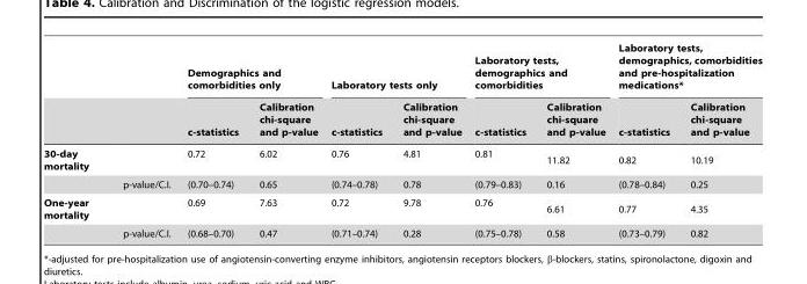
<table><thead><tr><td rowspan="2"></td><td rowspan="2"></td><td colspan="2">Demographics and comorbidities only</td><td colspan="2">Laboratory tests only</td><td colspan="2">Laboratory tests, demographics and comorbidities</td><td colspan="2">Laboratory tests, demographics, comorbidities and pre-hospitalization medications*</td></tr><tr><td>c-statistics</td><td>Calibration chi-square and p-value</td><td>c-statistics</td><td>Calibration chi-square and p-value</td><td>c-statistics</td><td>Calibration chi-square and p-value</td><td>c-statistics</td><td>Calibration chi-square and p-value</td></tr></thead><tbody><tr><td rowspan="2">30-day mortality</td><td></td><td>0.72</td><td>6.02</td><td>0.76</td><td>4.81</td><td>0.81</td><td>11.82</td><td>0.82</td><td>10.19</td></tr><tr><td>p-value/C.I.</td><td>(0.70–0.74)</td><td>0.65</td><td>(0.74–0.78)</td><td>0.78</td><td>(0.79–0.83)</td><td>0.16</td><td>(0.78–0.84)</td><td>0.25</td></tr><tr><td rowspan="2">One-year mortality</td><td></td><td>0.69</td><td>7.63</td><td>0.72</td><td>9.78</td><td>0.76</td><td>6.61</td><td>0.77</td><td>4.35</td></tr><tr><td>p-value/C.I.</td><td>(0.68–0.70)</td><td>0.47</td><td>(0.71–0.74)</td><td>0.28</td><td>(0.75–0.78)</td><td>0.58</td><td>(0.73–0.79)</td><td>0.82</td></tr></tbody></table>